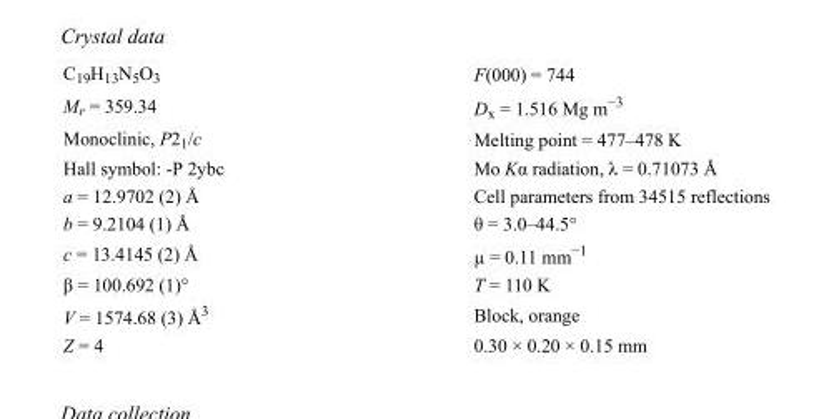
<table><tbody><tr><td>C<sub>19</sub>H<sub>13</sub>N<sub>5</sub>O<sub>3</sub></td><td>F(000) = 744</td></tr><tr><td>M<sub>r</sub> = 359.34</td><td>D<sub>x</sub> = 1.516 Mg m<sup>−3</sup></td></tr><tr><td>Monoclinic, P2<sub>1</sub>/c</td><td>Melting point = 477–478 K</td></tr><tr><td>Hall symbol: -P 2ybc</td><td>Mo Kα radiation, λ = 0.71073 Å</td></tr><tr><td>a = 12.9702 (2) Å</td><td>Cell parameters from 34515 reflections</td></tr><tr><td>b = 9.2104 (1) Å</td><td>θ = 3.0–44.5°</td></tr><tr><td>c = 13.4145 (2) Å</td><td>µ = 0.11 mm<sup>−1</sup></td></tr><tr><td>β = 100.692 (1)°</td><td>T = 110 K</td></tr><tr><td>V = 1574.68 (3) Å<sup>3</sup></td><td>Block, orange</td></tr><tr><td>Z = 4</td><td>0.30 × 0.20 × 0.15 mm</td></tr></tbody></table>